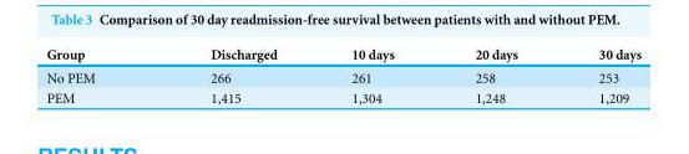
<table><thead><tr><td>Group</td><td>Discharged</td><td>10 days</td><td>20 days</td><td>30 days</td></tr></thead><tbody><tr><td>No PEM</td><td>266</td><td>261</td><td>258</td><td>253</td></tr><tr><td>PEM</td><td>1,415</td><td>1,304</td><td>1,248</td><td>1,209</td></tr></tbody></table>